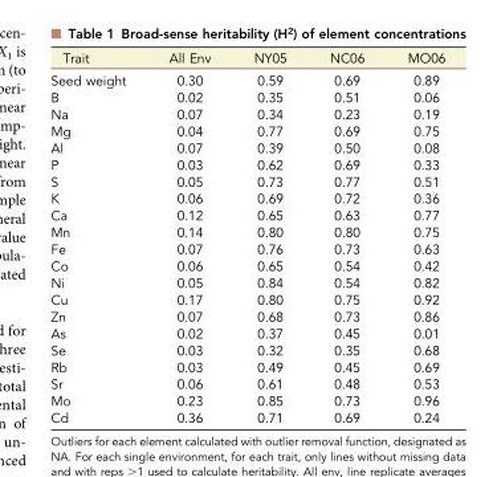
<table><thead><tr><td>Trait</td><td>All Env</td><td>NY05</td><td>NC06</td><td>MO06</td></tr></thead><tbody><tr><td>Seed weight</td><td>0.30</td><td>0.59</td><td>0.69</td><td>0.89</td></tr><tr><td>B</td><td>0.02</td><td>0.35</td><td>0.51</td><td>0.06</td></tr><tr><td>Na</td><td>0.07</td><td>0.34</td><td>0.23</td><td>0.19</td></tr><tr><td>Mg</td><td>0.04</td><td>0.77</td><td>0.69</td><td>0.75</td></tr><tr><td>Al</td><td>0.07</td><td>0.39</td><td>0.50</td><td>0.08</td></tr><tr><td>P</td><td>0.03</td><td>0.62</td><td>0.69</td><td>0.33</td></tr><tr><td>S</td><td>0.05</td><td>0.73</td><td>0.77</td><td>0.51</td></tr><tr><td>K</td><td>0.06</td><td>0.69</td><td>0.72</td><td>0.36</td></tr><tr><td>Ca</td><td>0.12</td><td>0.65</td><td>0.63</td><td>0.77</td></tr><tr><td>Mn</td><td>0.14</td><td>0.80</td><td>0.80</td><td>0.75</td></tr><tr><td>Fe</td><td>0.07</td><td>0.76</td><td>0.73</td><td>0.63</td></tr><tr><td>Co</td><td>0.06</td><td>0.65</td><td>0.54</td><td>0.42</td></tr><tr><td>Ni</td><td>0.05</td><td>0.84</td><td>0.54</td><td>0.82</td></tr><tr><td>Cu</td><td>0.17</td><td>0.80</td><td>0.75</td><td>0.92</td></tr><tr><td>Zn</td><td>0.07</td><td>0.68</td><td>0.73</td><td>0.86</td></tr><tr><td>As</td><td>0.02</td><td>0.37</td><td>0.45</td><td>0.01</td></tr><tr><td>Se</td><td>0.03</td><td>0.32</td><td>0.35</td><td>0.68</td></tr><tr><td>Rb</td><td>0.03</td><td>0.49</td><td>0.45</td><td>0.69</td></tr><tr><td>Sr</td><td>0.06</td><td>0.61</td><td>0.48</td><td>0.53</td></tr><tr><td>Mo</td><td>0.23</td><td>0.85</td><td>0.73</td><td>0.96</td></tr><tr><td>Cd</td><td>0.36</td><td>0.71</td><td>0.69</td><td>0.24</td></tr></tbody></table>